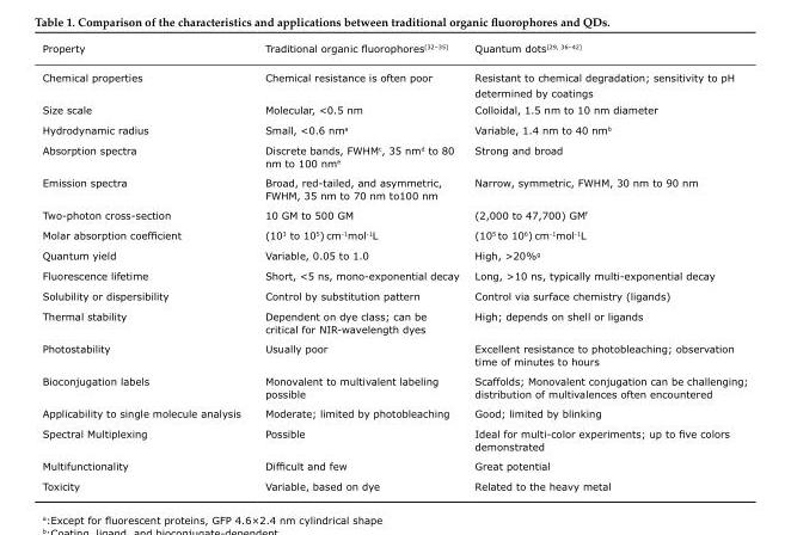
<table><thead><tr><td>Property</td><td>Traditional organic fluorophores<sup>[32–35]</sup></td><td>Quantum dots<sup>[29, 36–42]</sup></td></tr></thead><tbody><tr><td>Chemical properties</td><td>Chemical resistance is often poor</td><td>Resistant to chemical degradation; sensitivity to pH determined by coatings</td></tr><tr><td>Size scale</td><td>Molecular, &lt;0.5 nm</td><td>Colloidal, 1.5 nm to 10 nm diameter</td></tr><tr><td>Hydrodynamic radius</td><td>Small, &lt;0.6 nm<sup>a</sup></td><td>Variable, 1.4 nm to 40 nm<sup>b</sup></td></tr><tr><td>Absorption spectra</td><td>Discrete bands, FWHM<sup>c</sup>, 35 nm<sup>d</sup> to 80 nm to 100 nm<sup>e</sup></td><td>Strong and broad</td></tr><tr><td>Emission spectra</td><td>Broad, red-tailed, and asymmetric, FWHM, 35 nm to 70 nm to100 nm</td><td>Narrow, symmetric, FWHM, 30 nm to 90 nm</td></tr><tr><td>Two-photon cross-section</td><td>10 GM to 500 GM</td><td>(2,000 to 47,700) GM<sup>f</sup></td></tr><tr><td>Molar absorption coefficient</td><td>(10<sup>3</sup> to 10<sup>5</sup>) cm<sup>-1</sup>mol<sup>-1</sup>L</td><td>(10<sup>5</sup> to 10<sup>6</sup>) cm<sup>-1</sup>mol<sup>-1</sup>L</td></tr><tr><td>Quantum yield</td><td>Variable, 0.05 to 1.0</td><td>High, &gt;20%<sup>g</sup></td></tr><tr><td>Fluorescence lifetime</td><td>Short, &lt;5 ns, mono-exponential decay</td><td>Long, &gt;10 ns, typically multi-exponential decay</td></tr><tr><td>Solubility or dispersibility</td><td>Control by substitution pattern</td><td>Control via surface chemistry (ligands)</td></tr><tr><td>Thermal stability</td><td>Dependent on dye class; can be critical for NIR-wavelength dyes</td><td>High; depends on shell or ligands</td></tr><tr><td>Photostability</td><td>Usually poor</td><td>Excellent resistance to photobleaching; observation time of minutes to hours</td></tr><tr><td>Bioconjugation labels</td><td>Monovalent to multivalent labeling possible</td><td>Scaffolds; Monovalent conjugation can be challenging; distribution of multivalences often encountered</td></tr><tr><td>Applicability to single molecule analysis</td><td>Moderate; limited by photobleaching</td><td>Good; limited by blinking</td></tr><tr><td>Spectral Multiplexing</td><td>Possible</td><td>Ideal for multi-color experiments; up to five colors demonstrated</td></tr><tr><td>Multifunctionality</td><td>Difficult and few</td><td>Great potential</td></tr><tr><td>Toxicity</td><td>Variable, based on dye</td><td>Related to the heavy metal</td></tr></tbody></table>